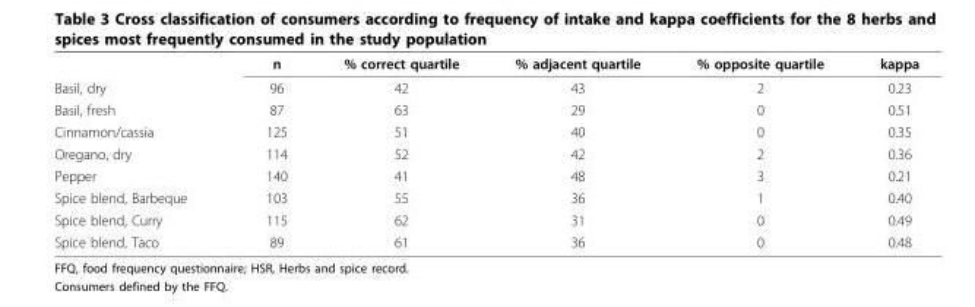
<table><thead><tr><td></td><td>n</td><td>% correct quartile</td><td>% adjacent quartile</td><td>% opposite quartile</td><td>kappa</td></tr></thead><tbody><tr><td>Basil, dry</td><td>96</td><td>42</td><td>43</td><td>2</td><td>0.23</td></tr><tr><td>Basil, fresh</td><td>87</td><td>63</td><td>29</td><td>0</td><td>0.51</td></tr><tr><td>Cinnamon/cassia</td><td>125</td><td>51</td><td>40</td><td>0</td><td>0.35</td></tr><tr><td>Oregano, dry</td><td>114</td><td>52</td><td>42</td><td>2</td><td>0.36</td></tr><tr><td>Pepper</td><td>140</td><td>41</td><td>48</td><td>3</td><td>0.21</td></tr><tr><td>Spice blend, Barbeque</td><td>103</td><td>55</td><td>36</td><td>1</td><td>0.40</td></tr><tr><td>Spice blend, Curry</td><td>115</td><td>62</td><td>31</td><td>0</td><td>0.49</td></tr><tr><td>Spice blend, Taco</td><td>89</td><td>61</td><td>36</td><td>0</td><td>0.48</td></tr></tbody></table>